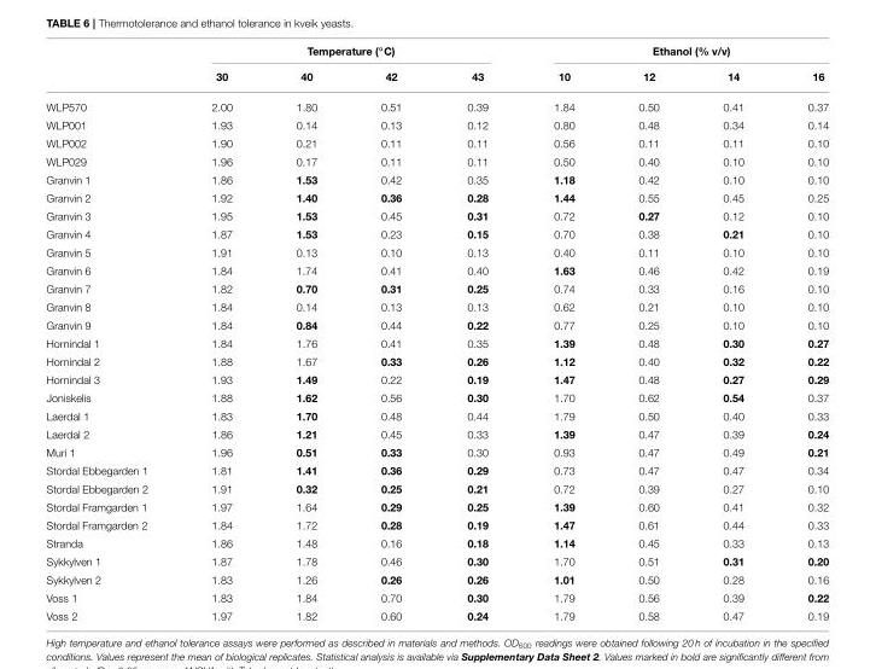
<table><thead><tr><td rowspan="2"></td><td colspan="4">Temperature (◦C)</td><td colspan="4">Ethanol (% v/v)</td></tr><tr><td>30</td><td>40</td><td>42</td><td>43</td><td>10</td><td>12</td><td>14</td><td>16</td></tr></thead><tbody><tr><td>WLP570</td><td>2.00</td><td>1.80</td><td>0.51</td><td>0.39</td><td>1.84</td><td>0.50</td><td>0.41</td><td>0.37</td></tr><tr><td>WLP001</td><td>1.93</td><td>0.14</td><td>0.13</td><td>0.12</td><td>0.80</td><td>0.48</td><td>0.34</td><td>0.14</td></tr><tr><td>WLP002</td><td>1.90</td><td>0.21</td><td>0.11</td><td>0.11</td><td>0.56</td><td>0.11</td><td>0.11</td><td>0.10</td></tr><tr><td>WLP029</td><td>1.96</td><td>0.17</td><td>0.11</td><td>0.11</td><td>0.50</td><td>0.40</td><td>0.10</td><td>0.10</td></tr><tr><td>Granvin 1</td><td>1.86</td><td>1.53</td><td>0.42</td><td>0.35</td><td>1.18</td><td>0.42</td><td>0.10</td><td>0.10</td></tr><tr><td>Granvin 2</td><td>1.92</td><td>1.40</td><td>0.36</td><td>0.28</td><td>1.44</td><td>0.55</td><td>0.45</td><td>0.25</td></tr><tr><td>Granvin 3</td><td>1.95</td><td>1.53</td><td>0.45</td><td>0.31</td><td>0.72</td><td>0.27</td><td>0.12</td><td>0.10</td></tr><tr><td>Granvin 4</td><td>1.87</td><td>1.53</td><td>0.23</td><td>0.15</td><td>0.70</td><td>0.38</td><td>0.21</td><td>0.10</td></tr><tr><td>Granvin 5</td><td>1.91</td><td>0.13</td><td>0.10</td><td>0.13</td><td>0.40</td><td>0.11</td><td>0.10</td><td>0.10</td></tr><tr><td>Granvin 6</td><td>1.84</td><td>1.74</td><td>0.41</td><td>0.40</td><td>1.63</td><td>0.46</td><td>0.42</td><td>0.19</td></tr><tr><td>Granvin 7</td><td>1.82</td><td>0.70</td><td>0.31</td><td>0.25</td><td>0.74</td><td>0.33</td><td>0.16</td><td>0.10</td></tr><tr><td>Granvin 8</td><td>1.84</td><td>0.14</td><td>0.13</td><td>0.13</td><td>0.62</td><td>0.21</td><td>0.10</td><td>0.10</td></tr><tr><td>Granvin 9</td><td>1.84</td><td>0.84</td><td>0.44</td><td>0.22</td><td>0.77</td><td>0.25</td><td>0.10</td><td>0.10</td></tr><tr><td>Hornindal 1</td><td>1.84</td><td>1.76</td><td>0.41</td><td>0.35</td><td>1.39</td><td>0.48</td><td>0.30</td><td>0.27</td></tr><tr><td>Hornindal 2</td><td>1.88</td><td>1.67</td><td>0.33</td><td>0.26</td><td>1.12</td><td>0.40</td><td>0.32</td><td>0.22</td></tr><tr><td>Hornindal 3</td><td>1.93</td><td>1.49</td><td>0.22</td><td>0.19</td><td>1.47</td><td>0.48</td><td>0.27</td><td>0.29</td></tr><tr><td>Joniskelis</td><td>1.88</td><td>1.62</td><td>0.56</td><td>0.30</td><td>1.70</td><td>0.62</td><td>0.54</td><td>0.37</td></tr><tr><td>Laerdal 1</td><td>1.83</td><td>1.70</td><td>0.48</td><td>0.44</td><td>1.79</td><td>0.50</td><td>0.40</td><td>0.33</td></tr><tr><td>Laerdal 2</td><td>1.86</td><td>1.21</td><td>0.45</td><td>0.33</td><td>1.39</td><td>0.47</td><td>0.39</td><td>0.24</td></tr><tr><td>Muri 1</td><td>1.96</td><td>0.51</td><td>0.33</td><td>0.30</td><td>0.93</td><td>0.47</td><td>0.49</td><td>0.21</td></tr><tr><td>Stordal Ebbegarden 1</td><td>1.81</td><td>1.41</td><td>0.36</td><td>0.29</td><td>0.73</td><td>0.47</td><td>0.47</td><td>0.34</td></tr><tr><td>Stordal Ebbegarden 2</td><td>1.91</td><td>0.32</td><td>0.25</td><td>0.21</td><td>0.72</td><td>0.39</td><td>0.27</td><td>0.10</td></tr><tr><td>Stordal Framgarden 1</td><td>1.97</td><td>1.64</td><td>0.29</td><td>0.25</td><td>1.39</td><td>0.60</td><td>0.41</td><td>0.32</td></tr><tr><td>Stordal Framgarden 2</td><td>1.84</td><td>1.72</td><td>0.28</td><td>0.19</td><td>1.47</td><td>0.61</td><td>0.44</td><td>0.33</td></tr><tr><td>Stranda</td><td>1.86</td><td>1.48</td><td>0.16</td><td>0.18</td><td>1.14</td><td>0.45</td><td>0.33</td><td>0.13</td></tr><tr><td>Sykkylven 1</td><td>1.87</td><td>1.78</td><td>0.46</td><td>0.30</td><td>1.70</td><td>0.51</td><td>0.31</td><td>0.20</td></tr><tr><td>Sykkylven 2</td><td>1.83</td><td>1.26</td><td>0.26</td><td>0.26</td><td>1.01</td><td>0.50</td><td>0.28</td><td>0.16</td></tr><tr><td>Voss 1</td><td>1.83</td><td>1.84</td><td>0.70</td><td>0.30</td><td>1.79</td><td>0.56</td><td>0.39</td><td>0.22</td></tr><tr><td>Voss 2</td><td>1.97</td><td>1.82</td><td>0.60</td><td>0.24</td><td>1.79</td><td>0.58</td><td>0.47</td><td>0.19</td></tr></tbody></table>